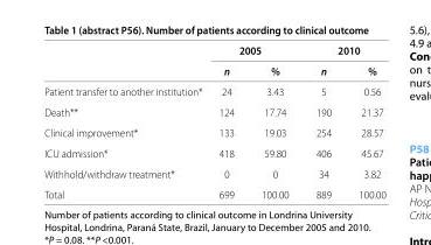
<table><thead><tr><td rowspan="2"></td><td colspan="2">2005</td><td colspan="2">2010</td></tr><tr><td>n</td><td>%</td><td>n</td><td>%</td></tr></thead><tbody><tr><td>Patient transfer to another institution*</td><td>24</td><td>3.43</td><td>5</td><td>0.56</td></tr><tr><td>Death**</td><td>124</td><td>17.74</td><td>190</td><td>21.37</td></tr><tr><td>Clinical improvement*</td><td>133</td><td>19.03</td><td>254</td><td>28.57</td></tr><tr><td>ICU admission*</td><td>418</td><td>59.80</td><td>406</td><td>45.67</td></tr><tr><td>Withhold/withdraw treatment*</td><td>0</td><td>0</td><td>34</td><td>3.82</td></tr><tr><td>Total</td><td>699</td><td>100.00</td><td>889</td><td>100.00</td></tr></tbody></table>